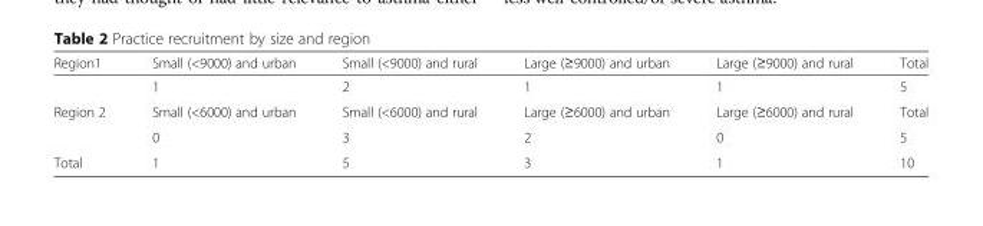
<table><thead><tr><td>Region1</td><td>Small (&lt;9000) and urban</td><td>Small (&lt;9000) and rural</td><td>Large (≥9000) and urban</td><td>Large (≥9000) and rural</td><td>Total</td></tr></thead><tbody><tr><td></td><td>1</td><td>2</td><td>1</td><td>1</td><td>5</td></tr><tr><td rowspan="2">Region 2</td><td>Small (&lt;6000) and urban</td><td>Small (&lt;6000) and rural</td><td>Large (≥6000) and urban</td><td>Large (≥6000) and rural</td><td>Total</td></tr><tr><td>0</td><td>3</td><td>2</td><td>0</td><td>5</td></tr><tr><td>Total</td><td>1</td><td>5</td><td>3</td><td>1</td><td>10</td></tr></tbody></table>